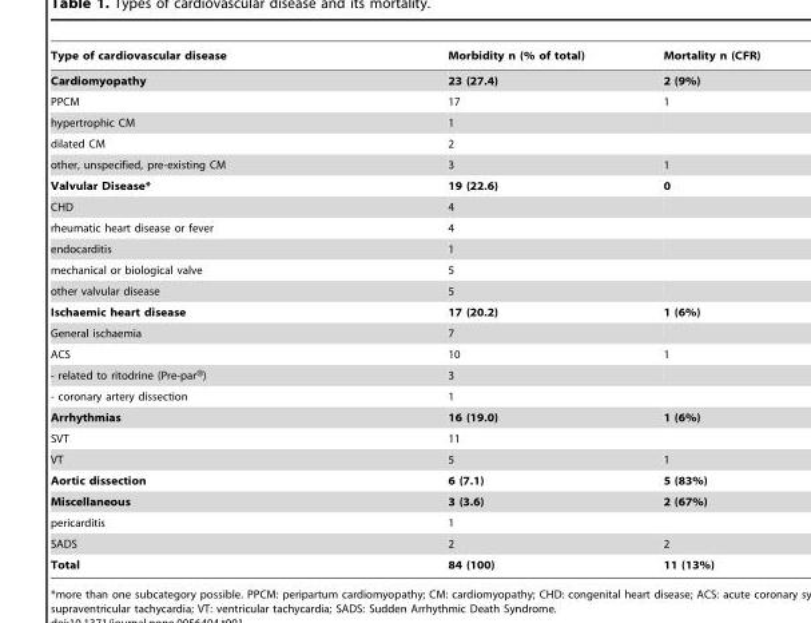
<table><thead><tr><td>Type of cardiovascular disease</td><td>Morbidity n (% of total)</td><td>Mortality n (CFR)</td></tr></thead><tbody><tr><td>Cardiomyopathy</td><td>23 (27.4)</td><td>2 (9%)</td></tr><tr><td>PPCM</td><td>17</td><td>1</td></tr><tr><td>hypertrophic CM</td><td>1</td><td></td></tr><tr><td>dilated CM</td><td>2</td><td></td></tr><tr><td>other, unspecified, pre-existing CM</td><td>3</td><td>1</td></tr><tr><td>Valvular Disease*</td><td>19 (22.6)</td><td>0</td></tr><tr><td>CHD</td><td>4</td><td></td></tr><tr><td>rheumatic heart disease or fever</td><td>4</td><td></td></tr><tr><td>endocarditis</td><td>1</td><td></td></tr><tr><td>mechanical or biological valve</td><td>5</td><td></td></tr><tr><td>other valvular disease</td><td>5</td><td></td></tr><tr><td>Ischaemic heart disease</td><td>17 (20.2)</td><td>1 (6%)</td></tr><tr><td>General ischaemia</td><td>7</td><td></td></tr><tr><td>ACS</td><td>10</td><td>1</td></tr><tr><td>- related to ritodrine (Pre-par®)</td><td>3</td><td></td></tr><tr><td>- coronary artery dissection</td><td>1</td><td></td></tr><tr><td>Arrhythmias</td><td>16 (19.0)</td><td>1 (6%)</td></tr><tr><td>SVT</td><td>11</td><td></td></tr><tr><td>VT</td><td>5</td><td>1</td></tr><tr><td>Aortic dissection</td><td>6 (7.1)</td><td>5 (83%)</td></tr><tr><td>Miscellaneous</td><td>3 (3.6)</td><td>2 (67%)</td></tr><tr><td>pericarditis</td><td>1</td><td></td></tr><tr><td>SADS</td><td>2</td><td>2</td></tr><tr><td>Total</td><td>84 (100)</td><td>11 (13%)</td></tr></tbody></table>